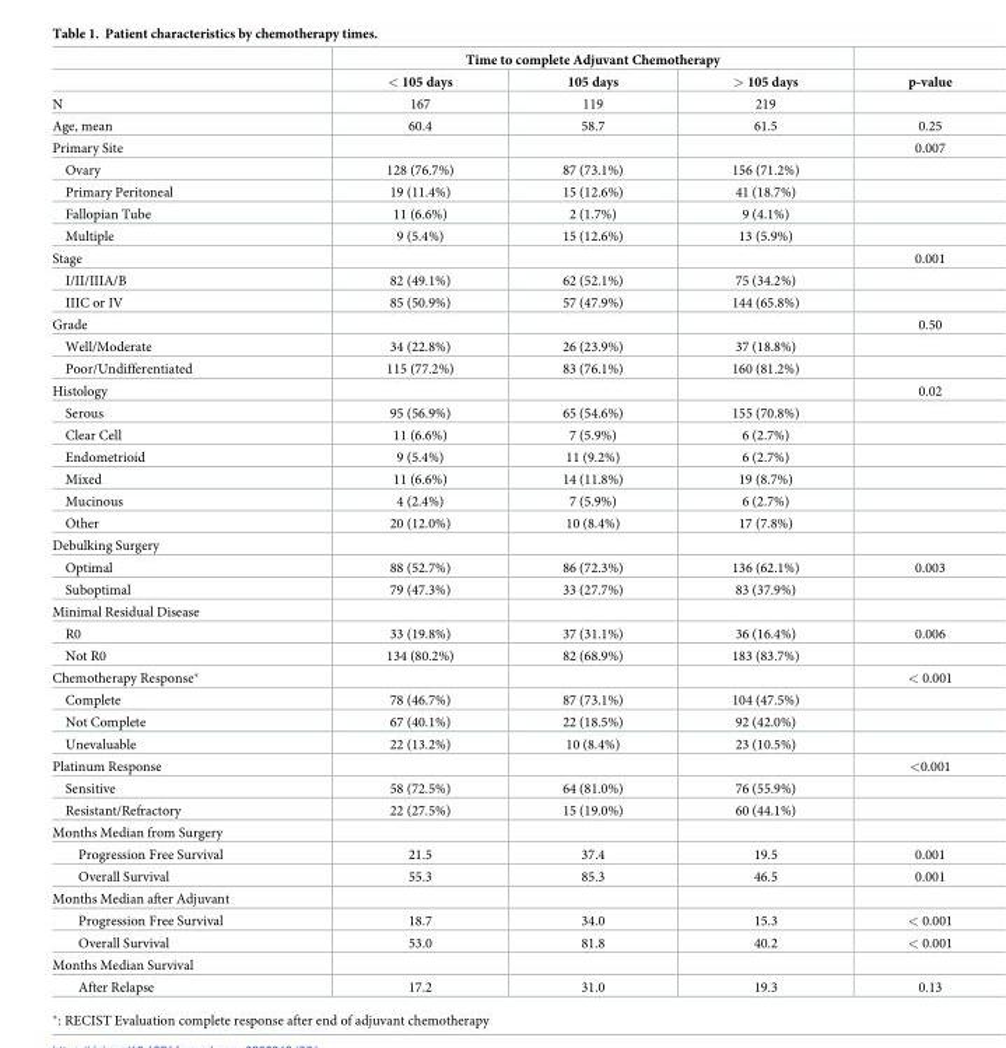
<table><thead><tr><td rowspan="2"></td><td colspan="3">Time to complete Adjuvant Chemotherapy</td><td rowspan="2">p-value</td></tr><tr><td>&lt; 105 days</td><td>105 days</td><td>&gt; 105 days</td></tr></thead><tbody><tr><td>N</td><td>167</td><td>119</td><td>219</td><td></td></tr><tr><td>Age, mean</td><td>60.4</td><td>58.7</td><td>61.5</td><td>0.25</td></tr><tr><td>Primary Site</td><td></td><td></td><td></td><td>0.007</td></tr><tr><td>Ovary</td><td>128 (76.7%)</td><td>87 (73.1%)</td><td>156 (71.2%)</td><td></td></tr><tr><td>Primary Peritoneal</td><td>19 (11.4%)</td><td>15 (12.6%)</td><td>41 (18.7%)</td><td></td></tr><tr><td>Fallopian Tube</td><td>11 (6.6%)</td><td>2 (1.7%)</td><td>9 (4.1%)</td><td></td></tr><tr><td>Multiple</td><td>9 (5.4%)</td><td>15 (12.6%)</td><td>13 (5.9%)</td><td></td></tr><tr><td>Stage</td><td></td><td></td><td></td><td>0.001</td></tr><tr><td>I/II/IIIA/B</td><td>82 (49.1%)</td><td>62 (52.1%)</td><td>75 (34.2%)</td><td></td></tr><tr><td>IIIC or IV</td><td>85 (50.9%)</td><td>57 (47.9%)</td><td>144 (65.8%)</td><td></td></tr><tr><td>Grade</td><td></td><td></td><td></td><td>0.50</td></tr><tr><td>Well/Moderate</td><td>34 (22.8%)</td><td>26 (23.9%)</td><td>37 (18.8%)</td><td></td></tr><tr><td>Poor/Undifferentiated</td><td>115 (77.2%)</td><td>83 (76.1%)</td><td>160 (81.2%)</td><td></td></tr><tr><td>Histology</td><td></td><td></td><td></td><td>0.02</td></tr><tr><td>Serous</td><td>95 (56.9%)</td><td>65 (54.6%)</td><td>155 (70.8%)</td><td></td></tr><tr><td>Clear Cell</td><td>11 (6.6%)</td><td>7 (5.9%)</td><td>6 (2.7%)</td><td></td></tr><tr><td>Endometrioid</td><td>9 (5.4%)</td><td>11 (9.2%)</td><td>6 (2.7%)</td><td></td></tr><tr><td>Mixed</td><td>11 (6.6%)</td><td>14 (11.8%)</td><td>19 (8.7%)</td><td></td></tr><tr><td>Mucinous</td><td>4 (2.4%)</td><td>7 (5.9%)</td><td>6 (2.7%)</td><td></td></tr><tr><td>Other</td><td>20 (12.0%)</td><td>10 (8.4%)</td><td>17 (7.8%)</td><td></td></tr><tr><td colspan="5">Debulking Surgery</td></tr><tr><td>Optimal</td><td>88 (52.7%)</td><td>86 (72.3%)</td><td>136 (62.1%)</td><td>0.003</td></tr><tr><td>Suboptimal</td><td>79 (47.3%)</td><td>33 (27.7%)</td><td>83 (37.9%)</td><td></td></tr><tr><td colspan="5">Minimal Residual Disease</td></tr><tr><td>R0</td><td>33 (19.8%)</td><td>37 (31.1%)</td><td>36 (16.4%)</td><td>0.006</td></tr><tr><td>Not R0</td><td>134 (80.2%)</td><td>82 (68.9%)</td><td>183 (83.7%)</td><td></td></tr><tr><td>Chemotherapy Response*</td><td></td><td></td><td></td><td>&lt; 0.001</td></tr><tr><td>Complete</td><td>78 (46.7%)</td><td>87 (73.1%)</td><td>104 (47.5%)</td><td></td></tr><tr><td>Not Complete</td><td>67 (40.1%)</td><td>22 (18.5%)</td><td>92 (42.0%)</td><td></td></tr><tr><td>Unevaluable</td><td>22 (13.2%)</td><td>10 (8.4%)</td><td>23 (10.5%)</td><td></td></tr><tr><td>Platinum Response</td><td></td><td></td><td></td><td>&lt;0.001</td></tr><tr><td>Sensitive</td><td>58 (72.5%)</td><td>64 (81.0%)</td><td>76 (55.9%)</td><td></td></tr><tr><td>Resistant/Refractory</td><td>22 (27.5%)</td><td>15 (19.0%)</td><td>60 (44.1%)</td><td></td></tr><tr><td colspan="5">Months Median from Surgery</td></tr><tr><td>Progression Free Survival</td><td>21.5</td><td>37.4</td><td>19.5</td><td>0.001</td></tr><tr><td>Overall Survival</td><td>55.3</td><td>85.3</td><td>46.5</td><td>0.001</td></tr><tr><td colspan="5">Months Median after Adjuvant</td></tr><tr><td>Progression Free Survival</td><td>18.7</td><td>34.0</td><td>15.3</td><td>&lt; 0.001</td></tr><tr><td>Overall Survival</td><td>53.0</td><td>81.8</td><td>40.2</td><td>&lt; 0.001</td></tr><tr><td colspan="5">Months Median Survival</td></tr><tr><td>After Relapse</td><td>17.2</td><td>31.0</td><td>19.3</td><td>0.13</td></tr></tbody></table>